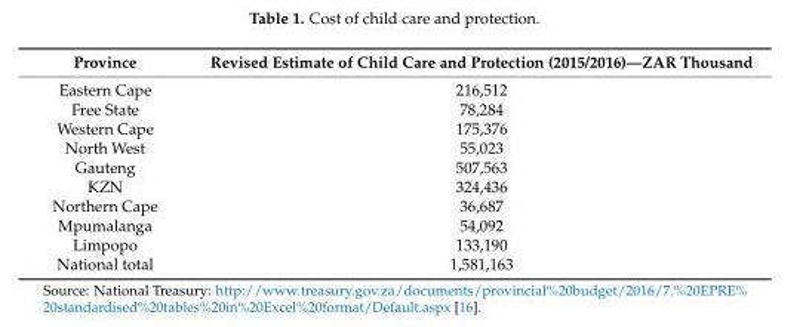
<table><thead><tr><td>Province</td><td>Revised Estimate of Child Care and Protection (2015/2016)—ZAR Thousand</td></tr></thead><tbody><tr><td>Eastern Cape</td><td>216,512</td></tr><tr><td>Free State</td><td>78,284</td></tr><tr><td>Western Cape</td><td>175,376</td></tr><tr><td>North West</td><td>55,023</td></tr><tr><td>Gauteng</td><td>507,563</td></tr><tr><td>KZN</td><td>324,436</td></tr><tr><td>Northern Cape</td><td>36,687</td></tr><tr><td>Mpumalanga</td><td>54,092</td></tr><tr><td>Limpopo</td><td>133,190</td></tr><tr><td>National total</td><td>1,581,163</td></tr></tbody></table>